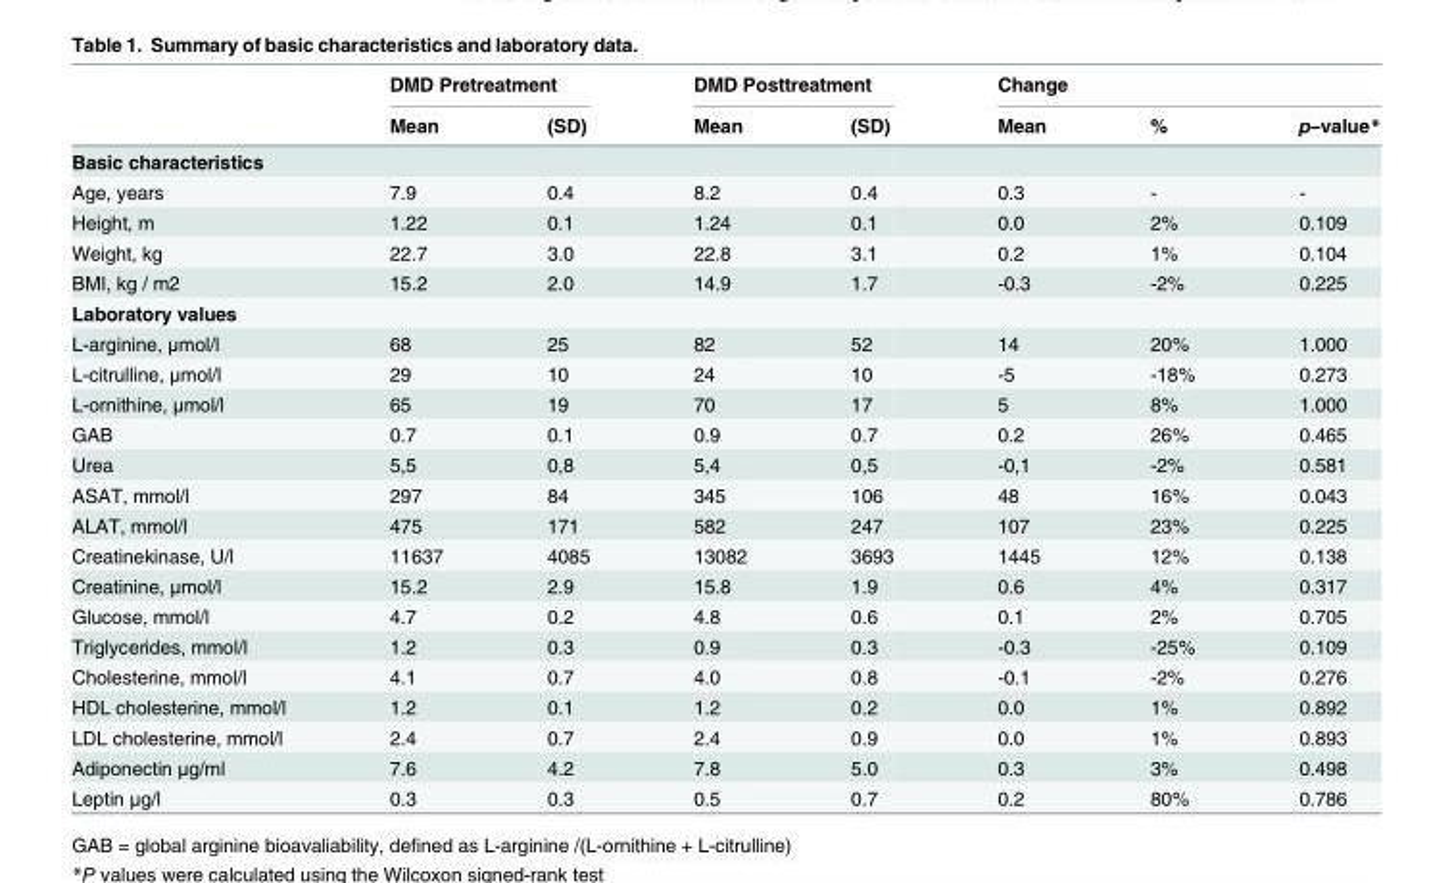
<table><thead><tr><td rowspan="2"></td><td colspan="2">DMD Pretreatment</td><td colspan="2">DMD Posttreatment</td><td colspan="3">Change</td></tr><tr><td>Mean</td><td>(SD)</td><td>Mean</td><td>(SD)</td><td>Mean</td><td>%</td><td>p–value*</td></tr></thead><tbody><tr><td colspan="8">Basic characteristics</td></tr><tr><td>Age, years</td><td>7.9</td><td>0.4</td><td>8.2</td><td>0.4</td><td>0.3</td><td>-</td><td>-</td></tr><tr><td>Height, m</td><td>1.22</td><td>0.1</td><td>1.24</td><td>0.1</td><td>0.0</td><td>2%</td><td>0.109</td></tr><tr><td>Weight, kg</td><td>22.7</td><td>3.0</td><td>22.8</td><td>3.1</td><td>0.2</td><td>1%</td><td>0.104</td></tr><tr><td>BMI, kg / m2</td><td>15.2</td><td>2.0</td><td>14.9</td><td>1.7</td><td>-0.3</td><td>-2%</td><td>0.225</td></tr><tr><td colspan="8">Laboratory values</td></tr><tr><td>L-arginine, μmol/l</td><td>68</td><td>25</td><td>82</td><td>52</td><td>14</td><td>20%</td><td>1.000</td></tr><tr><td>L-citrulline, μmol/l</td><td>29</td><td>10</td><td>24</td><td>10</td><td>-5</td><td>-18%</td><td>0.273</td></tr><tr><td>L-ornithine, μmol/l</td><td>65</td><td>19</td><td>70</td><td>17</td><td>5</td><td>8%</td><td>1.000</td></tr><tr><td>GAB</td><td>0.7</td><td>0.1</td><td>0.9</td><td>0.7</td><td>0.2</td><td>26%</td><td>0.465</td></tr><tr><td>Urea</td><td>5,5</td><td>0,8</td><td>5,4</td><td>0,5</td><td>-0,1</td><td>-2%</td><td>0.581</td></tr><tr><td>ASAT, mmol/l</td><td>297</td><td>84</td><td>345</td><td>106</td><td>48</td><td>16%</td><td>0.043</td></tr><tr><td>ALAT, mmol/l</td><td>475</td><td>171</td><td>582</td><td>247</td><td>107</td><td>23%</td><td>0.225</td></tr><tr><td>Creatinekinase, U/l</td><td>11637</td><td>4085</td><td>13082</td><td>3693</td><td>1445</td><td>12%</td><td>0.138</td></tr><tr><td>Creatinine, μmol/l</td><td>15.2</td><td>2.9</td><td>15.8</td><td>1.9</td><td>0.6</td><td>4%</td><td>0.317</td></tr><tr><td>Glucose, mmol/l</td><td>4.7</td><td>0.2</td><td>4.8</td><td>0.6</td><td>0.1</td><td>2%</td><td>0.705</td></tr><tr><td>Triglycerides, mmol/l</td><td>1.2</td><td>0.3</td><td>0.9</td><td>0.3</td><td>-0.3</td><td>-25%</td><td>0.109</td></tr><tr><td>Cholesterine, mmol/l</td><td>4.1</td><td>0.7</td><td>4.0</td><td>0.8</td><td>-0.1</td><td>-2%</td><td>0.276</td></tr><tr><td>HDL cholesterine, mmol/l</td><td>1.2</td><td>0.1</td><td>1.2</td><td>0.2</td><td>0.0</td><td>1%</td><td>0.892</td></tr><tr><td>LDL cholesterine, mmol/l</td><td>2.4</td><td>0.7</td><td>2.4</td><td>0.9</td><td>0.0</td><td>1%</td><td>0.893</td></tr><tr><td>Adiponectin μg/ml</td><td>7.6</td><td>4.2</td><td>7.8</td><td>5.0</td><td>0.3</td><td>3%</td><td>0.498</td></tr><tr><td>Leptin μg/l</td><td>0.3</td><td>0.3</td><td>0.5</td><td>0.7</td><td>0.2</td><td>80%</td><td>0.786</td></tr></tbody></table>